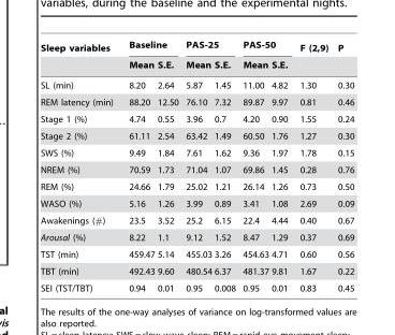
<table><thead><tr><td rowspan="2">Sleep variables</td><td colspan="2">Baseline</td><td colspan="2">PAS-25</td><td colspan="2">PAS-50</td><td rowspan="2">F (2,9)</td><td rowspan="2">P</td></tr><tr><td>Mean</td><td>S.E.</td><td>Mean</td><td>S.E.</td><td>Mean</td><td>S.E.</td></tr></thead><tbody><tr><td>SL (min)</td><td>8.20</td><td>2.64</td><td>5.87</td><td>1.45</td><td>11.00</td><td>4.82</td><td>1.30</td><td>0.30</td></tr><tr><td>REM latency (min)</td><td>88.20</td><td>12.50</td><td>76.10</td><td>7.32</td><td>89.87</td><td>9.97</td><td>0.81</td><td>0.46</td></tr><tr><td>Stage 1 (%)</td><td>4.74</td><td>0.55</td><td>3.96</td><td>0.7</td><td>4.20</td><td>0.90</td><td>1.55</td><td>0.24</td></tr><tr><td>Stage 2 (%)</td><td>61.11</td><td>2.54</td><td>63.42</td><td>1.49</td><td>60.50</td><td>1.76</td><td>1.27</td><td>0.30</td></tr><tr><td>SWS (%)</td><td>9.49</td><td>1.84</td><td>7.61</td><td>1.62</td><td>9.36</td><td>1.97</td><td>1.78</td><td>0.15</td></tr><tr><td>NREM (%)</td><td>70.59</td><td>1.73</td><td>71.04</td><td>1.07</td><td>69.86</td><td>1.45</td><td>0.28</td><td>0.76</td></tr><tr><td>REM (%)</td><td>24.66</td><td>1.79</td><td>25.02</td><td>1.21</td><td>26.14</td><td>1.26</td><td>0.73</td><td>0.50</td></tr><tr><td>WASO (%)</td><td>5.16</td><td>1.26</td><td>3.99</td><td>0.89</td><td>3.41</td><td>1.08</td><td>2.69</td><td>0.09</td></tr><tr><td>Awakenings (#)</td><td>23.5</td><td>3.52</td><td>25.2</td><td>6.15</td><td>22.4</td><td>4.44</td><td>0.40</td><td>0.67</td></tr><tr><td>Arousal (%)</td><td>8.22</td><td>1.1</td><td>9.12</td><td>1.52</td><td>8.47</td><td>1.29</td><td>0.37</td><td>0.69</td></tr><tr><td>TST (min)</td><td>459.47</td><td>5.14</td><td>455.03</td><td>3.26</td><td>454.63</td><td>4.71</td><td>0.60</td><td>0.56</td></tr><tr><td>TBT (min)</td><td>492.43</td><td>9.60</td><td>480.54</td><td>6.37</td><td>481.37</td><td>9.81</td><td>1.67</td><td>0.22</td></tr><tr><td>SEI (TST/TBT)</td><td>0.94</td><td>0.01</td><td>0.95</td><td>0.008</td><td>0.95</td><td>0.01</td><td>0.83</td><td>0.45</td></tr></tbody></table>